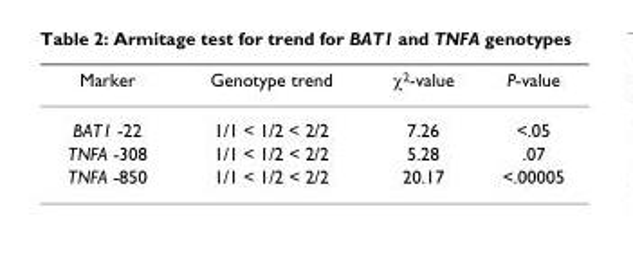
<table><thead><tr><td>Marker</td><td>Genotype trend</td><td>χ<sup>2</sup>-value</td><td>P-value</td></tr></thead><tbody><tr><td>BAT1 -22</td><td>1/1 &lt; 1/2 &lt; 2/2</td><td>7.26</td><td>&lt;.05</td></tr><tr><td>TNFA -308</td><td>1/1 &lt; 1/2 &lt; 2/2</td><td>5.28</td><td>.07</td></tr><tr><td>TNFA -850</td><td>1/1 &lt; 1/2 &lt; 2/2</td><td>20.17</td><td>&lt;.00005</td></tr></tbody></table>